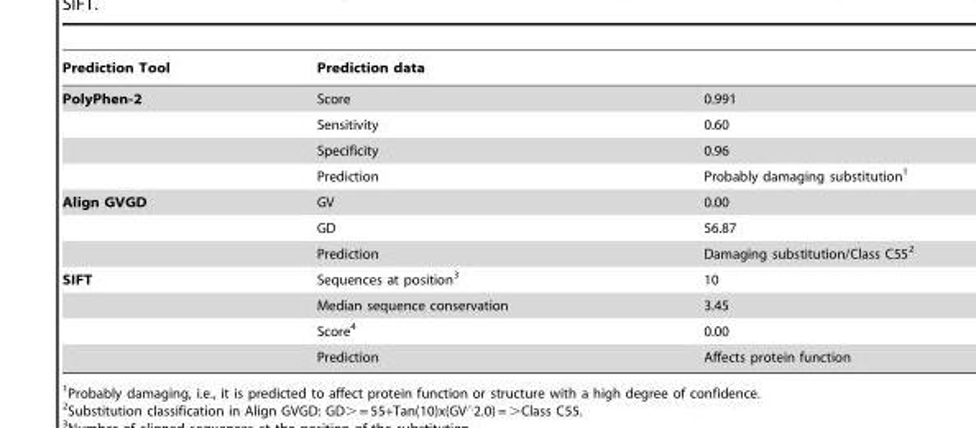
<table><thead><tr><td rowspan="2">Prediction Tool PolyPhen-2</td><td colspan="2">Prediction data</td></tr><tr><td>Score</td><td>0.991</td></tr></thead><tbody><tr><td></td><td>Sensitivity</td><td>0.60</td></tr><tr><td></td><td>Specificity</td><td>0.96</td></tr><tr><td></td><td>Prediction</td><td>Probably damaging substitution<sup>1</sup></td></tr><tr><td rowspan="3">Align GVGD</td><td>GV</td><td>0.00</td></tr><tr><td>GD</td><td>56.87</td></tr><tr><td>Prediction</td><td>Damaging substitution/Class C55<sup>2</sup></td></tr><tr><td rowspan="4">SIFT</td><td>Sequences at position<sup>3</sup></td><td>10</td></tr><tr><td>Median sequence conservation</td><td>3.45</td></tr><tr><td>Score<sup>4</sup></td><td>0.00</td></tr><tr><td>Prediction</td><td>Affects protein function</td></tr></tbody></table>